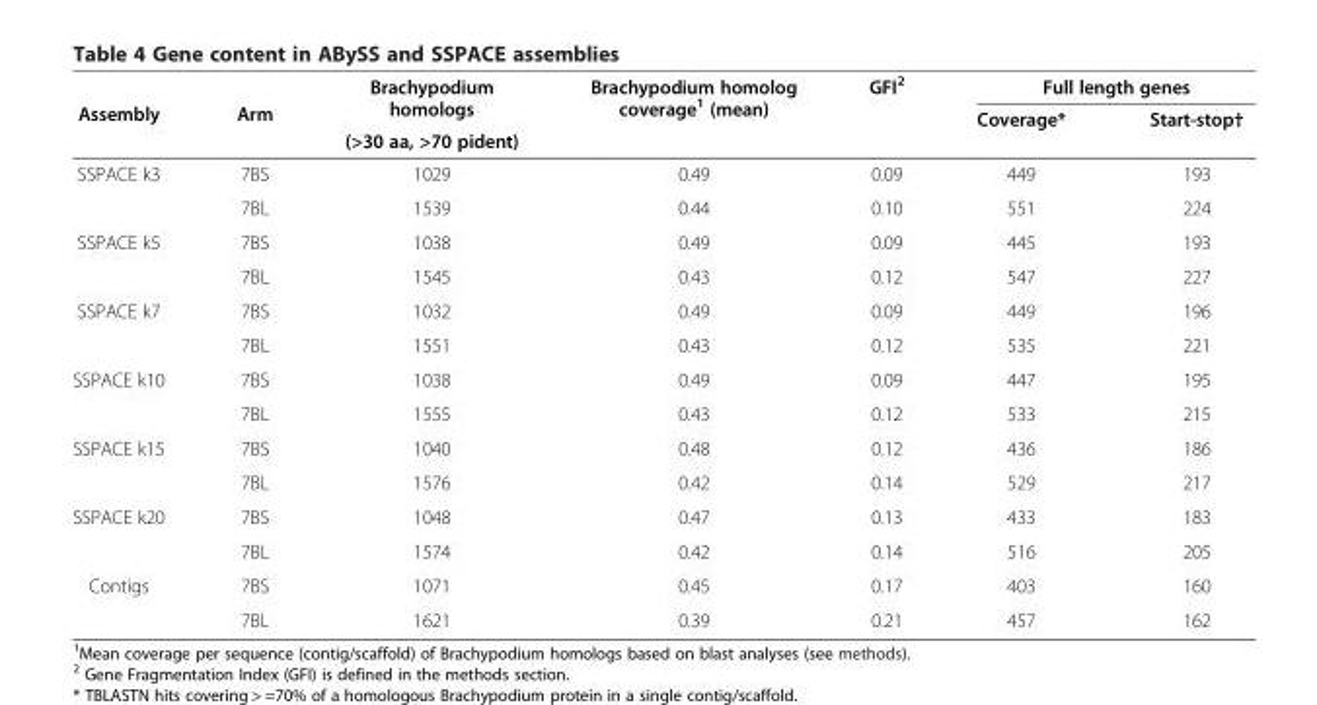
<table><thead><tr><td rowspan="3">Assembly</td><td rowspan="3">Arm</td><td rowspan="3">Brachypodium homologs (&gt;30 aa, &gt;70 pident)</td><td rowspan="3">Brachypodium homolog coverage<sup>1</sup> (mean)</td><td rowspan="3">GFI<sup>2</sup></td><td colspan="2">Full length genes</td></tr><tr><td rowspan="2">Coverage*</td><td rowspan="2">Start-stop†</td></tr><tr></tr></thead><tbody><tr><td rowspan="2">SSPACE k3</td><td>7BS</td><td>1029</td><td>0.49</td><td>0.09</td><td>449</td><td>193</td></tr><tr><td>7BL</td><td>1539</td><td>0.44</td><td>0.10</td><td>551</td><td>224</td></tr><tr><td rowspan="2">SSPACE k5</td><td>7BS</td><td>1038</td><td>0.49</td><td>0.09</td><td>445</td><td>193</td></tr><tr><td>7BL</td><td>1545</td><td>0.43</td><td>0.12</td><td>547</td><td>227</td></tr><tr><td rowspan="2">SSPACE k7</td><td>7BS</td><td>1032</td><td>0.49</td><td>0.09</td><td>449</td><td>196</td></tr><tr><td>7BL</td><td>1551</td><td>0.43</td><td>0.12</td><td>535</td><td>221</td></tr><tr><td rowspan="2">SSPACE k10</td><td>7BS</td><td>1038</td><td>0.49</td><td>0.09</td><td>447</td><td>195</td></tr><tr><td>7BL</td><td>1555</td><td>0.43</td><td>0.12</td><td>533</td><td>215</td></tr><tr><td rowspan="2">SSPACE k15</td><td>7BS</td><td>1040</td><td>0.48</td><td>0.12</td><td>436</td><td>186</td></tr><tr><td>7BL</td><td>1576</td><td>0.42</td><td>0.14</td><td>529</td><td>217</td></tr><tr><td rowspan="2">SSPACE k20</td><td>7BS</td><td>1048</td><td>0.47</td><td>0.13</td><td>433</td><td>183</td></tr><tr><td>7BL</td><td>1574</td><td>0.42</td><td>0.14</td><td>516</td><td>205</td></tr><tr><td rowspan="2">Contigs</td><td>7BS</td><td>1071</td><td>0.45</td><td>0.17</td><td>403</td><td>160</td></tr><tr><td>7BL</td><td>1621</td><td>0.39</td><td>0.21</td><td>457</td><td>162</td></tr></tbody></table>